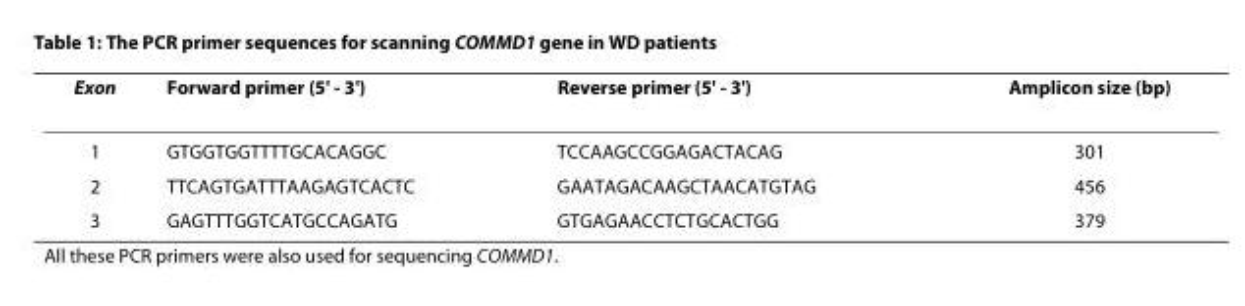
<table><thead><tr><td>Exon</td><td>Forward primer (5&#x27; - 3&#x27;)</td><td>Reverse primer (5&#x27; - 3&#x27;)</td><td>Amplicon size (bp)</td></tr></thead><tbody><tr><td>1</td><td>GTGGTGGTTTTGCACAGGC</td><td>TCCAAGCCGGAGACTACAG</td><td>301</td></tr><tr><td>2</td><td>TTCAGTGATTTAAGAGTCACTC</td><td>GAATAGACAAGCTAACATGTAG</td><td>456</td></tr><tr><td>3</td><td>GAGTTTGGTCATGCCAGATG</td><td>GTGAGAACCTCTGCACTGG</td><td>379</td></tr></tbody></table>